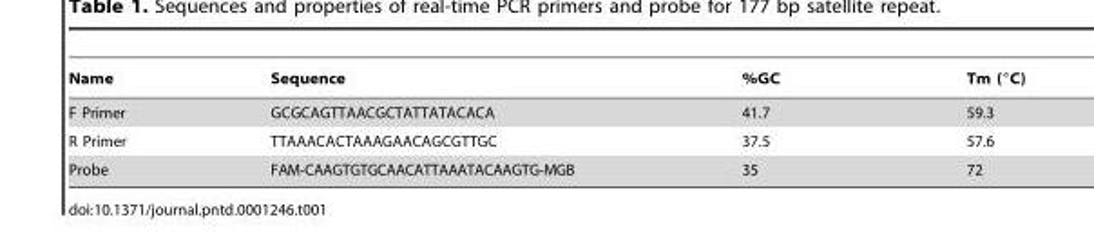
<table><thead><tr><td>Name</td><td>Sequence</td><td>%GC</td><td>Tm (°C)</td></tr></thead><tbody><tr><td>F Primer</td><td>GCGCAGTTAACGCTATTATACACA</td><td>41.7</td><td>59.3</td></tr><tr><td>R Primer</td><td>TTAAACACTAAAGAACAGCGTTGC</td><td>37.5</td><td>57.6</td></tr><tr><td>Probe</td><td>FAM-CAAGTGTGCAACATTAAATACAAGTG-MGB</td><td>35</td><td>72</td></tr></tbody></table>